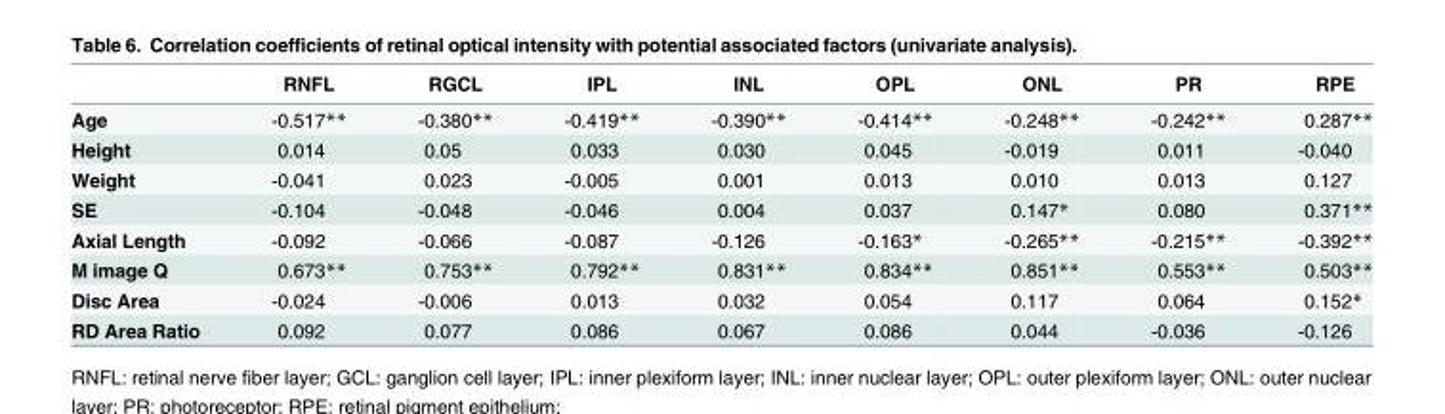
<table><thead><tr><td></td><td>RNFL</td><td>RGCL</td><td>IPL</td><td>INL</td><td>OPL</td><td>ONL</td><td>PR</td><td>RPE</td></tr></thead><tbody><tr><td>Age</td><td>-0.517**</td><td>-0.380**</td><td>-0.419**</td><td>-0.390**</td><td>-0.414**</td><td>-0.248**</td><td>-0.242**</td><td>0.287**</td></tr><tr><td>Height</td><td>0.014</td><td>0.05</td><td>0.033</td><td>0.030</td><td>0.045</td><td>-0.019</td><td>0.011</td><td>-0.040</td></tr><tr><td>Weight</td><td>-0.041</td><td>0.023</td><td>-0.005</td><td>0.001</td><td>0.013</td><td>0.010</td><td>0.013</td><td>0.127</td></tr><tr><td>SE</td><td>-0.104</td><td>-0.048</td><td>-0.046</td><td>0.004</td><td>0.037</td><td>0.147*</td><td>0.080</td><td>0.371**</td></tr><tr><td>Axial Length</td><td>-0.092</td><td>-0.066</td><td>-0.087</td><td>-0.126</td><td>-0.163*</td><td>-0.265**</td><td>-0.215**</td><td>-0.392**</td></tr><tr><td>M image Q</td><td>0.673**</td><td>0.753**</td><td>0.792**</td><td>0.831**</td><td>0.834**</td><td>0.851**</td><td>0.553**</td><td>0.503**</td></tr><tr><td>Disc Area</td><td>-0.024</td><td>-0.006</td><td>0.013</td><td>0.032</td><td>0.054</td><td>0.117</td><td>0.064</td><td>0.152*</td></tr><tr><td>RD Area Ratio</td><td>0.092</td><td>0.077</td><td>0.086</td><td>0.067</td><td>0.086</td><td>0.044</td><td>-0.036</td><td>-0.126</td></tr></tbody></table>